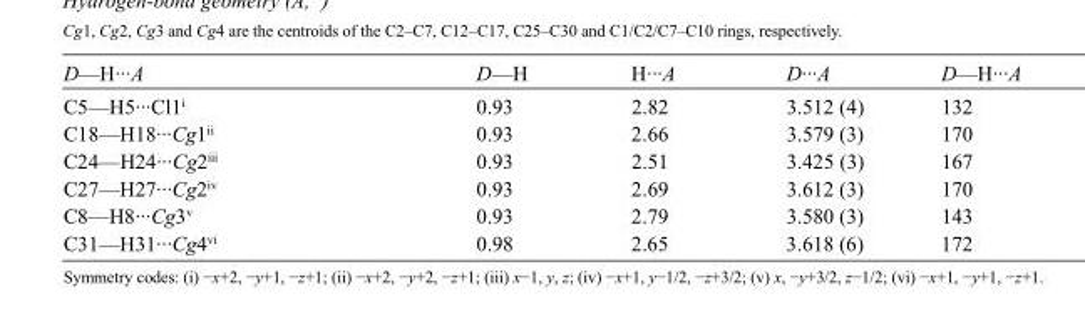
<table><tbody><tr><td>D—H···A</td><td>D—H</td><td>H···A</td><td>D···A</td><td>D—H···A</td></tr><tr><td>C5—H5···Cl1<sup>i</sup></td><td>0.93</td><td>2.82</td><td>3.512 (4)</td><td>132</td></tr><tr><td>C18—H18···Cg1<sup>ii</sup></td><td>0.93</td><td>2.66</td><td>3.579 (3)</td><td>170</td></tr><tr><td>C24—H24···Cg2<sup>iii</sup></td><td>0.93</td><td>2.51</td><td>3.425 (3)</td><td>167</td></tr><tr><td>C27—H27···Cg2<sup>iv</sup></td><td>0.93</td><td>2.69</td><td>3.612 (3)</td><td>170</td></tr><tr><td>C8—H8···Cg3<sup>v</sup></td><td>0.93</td><td>2.79</td><td>3.580 (3)</td><td>143</td></tr><tr><td>C31—H31···Cg4<sup>vi</sup></td><td>0.98</td><td>2.65</td><td>3.618 (6)</td><td>172</td></tr></tbody></table>